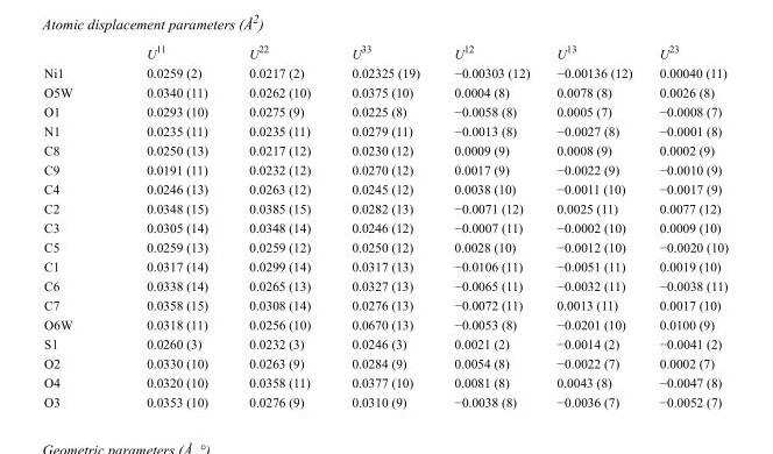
<table><thead><tr><td></td><td>U<sup>11</sup></td><td>U<sup>22</sup></td><td>U<sup>33</sup></td><td>U<sup>12</sup></td><td>U<sup>13</sup></td><td>U<sup>23</sup></td></tr></thead><tbody><tr><td>Ni1</td><td>0.0259 (2)</td><td>0.0217 (2)</td><td>0.02325 (19)</td><td>−0.00303 (12)</td><td>−0.00136 (12)</td><td>0.00040 (11)</td></tr><tr><td>O5W</td><td>0.0340 (11)</td><td>0.0262 (10)</td><td>0.0375 (10)</td><td>0.0004 (8)</td><td>0.0078 (8)</td><td>0.0026 (8)</td></tr><tr><td>O1</td><td>0.0293 (10)</td><td>0.0275 (9)</td><td>0.0225 (8)</td><td>−0.0058 (8)</td><td>0.0005 (7)</td><td>−0.0008 (7)</td></tr><tr><td>N1</td><td>0.0235 (11)</td><td>0.0235 (11)</td><td>0.0279 (11)</td><td>−0.0013 (8)</td><td>−0.0027 (8)</td><td>−0.0001 (8)</td></tr><tr><td>C8</td><td>0.0250 (13)</td><td>0.0217 (12)</td><td>0.0230 (12)</td><td>0.0009 (9)</td><td>0.0008 (9)</td><td>0.0002 (9)</td></tr><tr><td>C9</td><td>0.0191 (11)</td><td>0.0232 (12)</td><td>0.0270 (12)</td><td>0.0017 (9)</td><td>−0.0022 (9)</td><td>−0.0010 (9)</td></tr><tr><td>C4</td><td>0.0246 (13)</td><td>0.0263 (12)</td><td>0.0245 (12)</td><td>0.0038 (10)</td><td>−0.0011 (10)</td><td>−0.0017 (9)</td></tr><tr><td>C2</td><td>0.0348 (15)</td><td>0.0385 (15)</td><td>0.0282 (13)</td><td>−0.0071 (12)</td><td>0.0025 (11)</td><td>0.0077 (12)</td></tr><tr><td>C3</td><td>0.0305 (14)</td><td>0.0348 (14)</td><td>0.0246 (12)</td><td>−0.0007 (11)</td><td>−0.0002 (10)</td><td>0.0009 (10)</td></tr><tr><td>C5</td><td>0.0259 (13)</td><td>0.0259 (12)</td><td>0.0250 (12)</td><td>0.0028 (10)</td><td>−0.0012 (10)</td><td>−0.0020 (10)</td></tr><tr><td>C1</td><td>0.0317 (14)</td><td>0.0299 (14)</td><td>0.0317 (13)</td><td>−0.0106 (11)</td><td>−0.0051 (11)</td><td>0.0019 (10)</td></tr><tr><td>C6</td><td>0.0338 (14)</td><td>0.0265 (13)</td><td>0.0327 (13)</td><td>−0.0065 (11)</td><td>−0.0032 (11)</td><td>−0.0038 (11)</td></tr><tr><td>C7</td><td>0.0358 (15)</td><td>0.0308 (14)</td><td>0.0276 (13)</td><td>−0.0072 (11)</td><td>0.0013 (11)</td><td>0.0017 (10)</td></tr><tr><td>O6W</td><td>0.0318 (11)</td><td>0.0256 (10)</td><td>0.0670 (13)</td><td>−0.0053 (8)</td><td>−0.0201 (10)</td><td>0.0100 (9)</td></tr><tr><td>S1</td><td>0.0260 (3)</td><td>0.0232 (3)</td><td>0.0246 (3)</td><td>0.0021 (2)</td><td>−0.0014 (2)</td><td>−0.0041 (2)</td></tr><tr><td>O2</td><td>0.0330 (10)</td><td>0.0263 (9)</td><td>0.0284 (9)</td><td>0.0054 (8)</td><td>−0.0022 (7)</td><td>0.0002 (7)</td></tr><tr><td>O4</td><td>0.0320 (10)</td><td>0.0358 (11)</td><td>0.0377 (10)</td><td>0.0081 (8)</td><td>0.0043 (8)</td><td>−0.0047 (8)</td></tr><tr><td>O3</td><td>0.0353 (10)</td><td>0.0276 (9)</td><td>0.0310 (9)</td><td>−0.0038 (8)</td><td>−0.0036 (7)</td><td>−0.0052 (7)</td></tr></tbody></table>